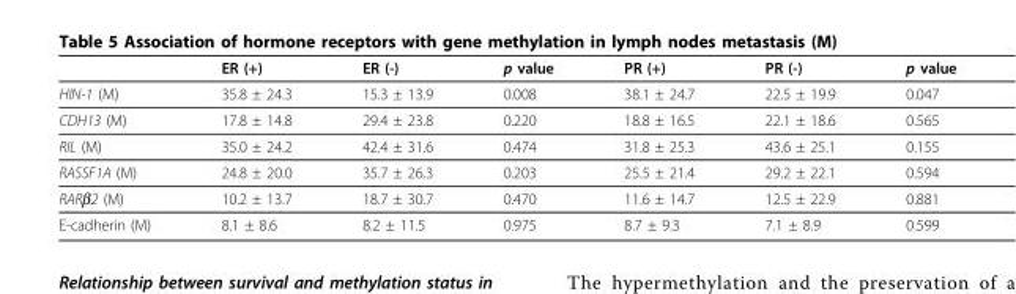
<table><thead><tr><td></td><td>ER (+)</td><td>ER (-)</td><td>p value</td><td>PR (+)</td><td>PR (-)</td><td>p value</td></tr></thead><tbody><tr><td>HIN-1 (M)</td><td>35.8 ± 24.3</td><td>15.3 ± 13.9</td><td>0.008</td><td>38.1 ± 24.7</td><td>22.5 ± 19.9</td><td>0.047</td></tr><tr><td>CDH13 (M)</td><td>17.8 ± 14.8</td><td>29.4 ± 23.8</td><td>0.220</td><td>18.8 ± 16.5</td><td>22.1 ± 18.6</td><td>0.565</td></tr><tr><td>RIL (M)</td><td>35.0 ± 24.2</td><td>42.4 ± 31.6</td><td>0.474</td><td>31.8 ± 25.3</td><td>43.6 ± 25.1</td><td>0.155</td></tr><tr><td>RASSF1A (M)</td><td>24.8 ± 20.0</td><td>35.7 ± 26.3</td><td>0.203</td><td>25.5 ± 21.4</td><td>29.2 ± 22.1</td><td>0.594</td></tr><tr><td>RARβ2 (M)</td><td>10.2 ± 13.7</td><td>18.7 ± 30.7</td><td>0.470</td><td>11.6 ± 14.7</td><td>12.5 ± 22.9</td><td>0.881</td></tr><tr><td>E-cadherin (M)</td><td>8.1 ± 8.6</td><td>8.2 ± 11.5</td><td>0.975</td><td>8.7 ± 9.3</td><td>7.1 ± 8.9</td><td>0.599</td></tr></tbody></table>